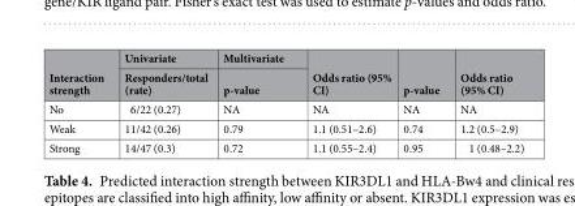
<table><thead><tr><td rowspan="2">Interaction strength</td><td rowspan="2">Univariate Responders/total (rate)</td><td rowspan="2">Multivariate p-value</td><td rowspan="2">Odds ratio (95% CI)</td><td rowspan="2">p-value</td><td rowspan="2">Odds ratio (95% CI)</td></tr><tr></tr></thead><tbody><tr><td>No</td><td>6/22 (0.27)</td><td>NA</td><td>NA</td><td>NA</td><td>NA</td></tr><tr><td>Weak</td><td>11/42 (0.26)</td><td>0.79</td><td>1.1 (0.51–2.6)</td><td>0.74</td><td>1.2 (0.5–2.9)</td></tr><tr><td>Strong</td><td>14/47 (0.3)</td><td>0.72</td><td>1.1 (0.55–2.4)</td><td>0.95</td><td>1 (0.48–2.2)</td></tr></tbody></table>